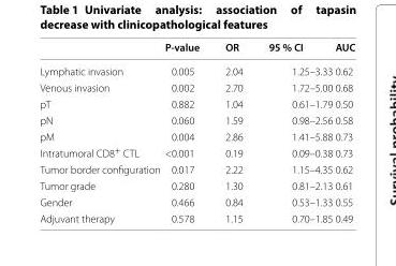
<table><thead><tr><td></td><td>P-value</td><td>OR</td><td>95 % CI</td><td>AUC</td></tr></thead><tbody><tr><td>Lymphatic invasion</td><td>0.005</td><td>2.04</td><td>1.25–3.33</td><td>0.62</td></tr><tr><td>Venous invasion</td><td>0.002</td><td>2.70</td><td>1.72–5.00</td><td>0.68</td></tr><tr><td>pT</td><td>0.882</td><td>1.04</td><td>0.61–1.79</td><td>0.50</td></tr><tr><td>pN</td><td>0.060</td><td>1.59</td><td>0.98–2.56</td><td>0.58</td></tr><tr><td>pM</td><td>0.004</td><td>2.86</td><td>1.41–5.88</td><td>0.73</td></tr><tr><td>Intratumoral CD8<sup>+</sup> CTL</td><td>&lt;0.001</td><td>0.19</td><td>0.09–0.38</td><td>0.73</td></tr><tr><td>Tumor border configuration</td><td>0.017</td><td>2.22</td><td>1.15–4.35</td><td>0.62</td></tr><tr><td>Tumor grade</td><td>0.280</td><td>1.30</td><td>0.81–2.13</td><td>0.61</td></tr><tr><td>Gender</td><td>0.466</td><td>0.84</td><td>0.53–1.33</td><td>0.55</td></tr><tr><td>Adjuvant therapy</td><td>0.578</td><td>1.15</td><td>0.70–1.85</td><td>0.49</td></tr></tbody></table>